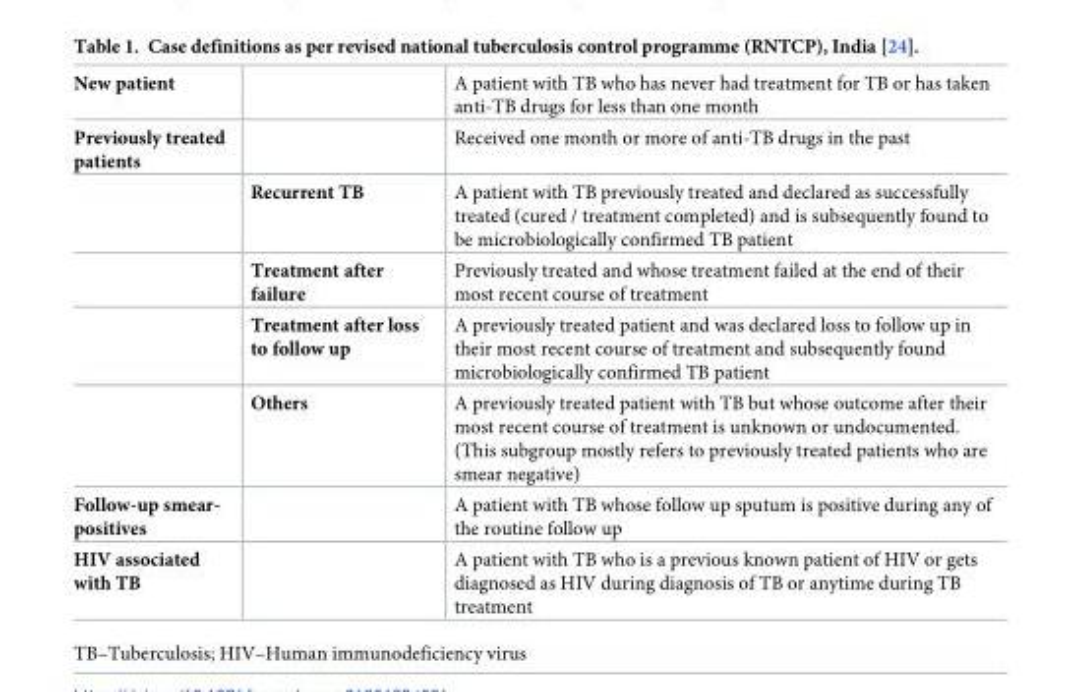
<table><tbody><tr><td>New patient</td><td></td><td>A patient with TB who has never had treatment for TB or has taken anti-TB drugs for less than one month</td></tr><tr><td rowspan="5">Previously treated patients</td><td></td><td>Received one month or more of anti-TB drugs in the past</td></tr><tr><td>Recurrent TB</td><td>A patient with TB previously treated and declared as successfully treated (cured / treatment completed) and is subsequently found to be microbiologically confirmed TB patient</td></tr><tr><td>Treatment after failure</td><td>Previously treated and whose treatment failed at the end of their most recent course of treatment</td></tr><tr><td>Treatment after loss to follow up</td><td>A previously treated patient and was declared loss to follow up in their most recent course of treatment and subsequently found microbiologically confirmed TB patient</td></tr><tr><td>Others</td><td>A previously treated patient with TB but whose outcome after their most recent course of treatment is unknown or undocumented. (This subgroup mostly refers to previously treated patients who are smear negative)</td></tr><tr><td>Follow-up smear- positives</td><td></td><td>A patient with TB whose follow up sputum is positive during any of the routine follow up</td></tr><tr><td>HIV associated with TB</td><td></td><td>A patient with TB who is a previous known patient of HIV or gets diagnosed as HIV during diagnosis of TB or anytime during TB treatment</td></tr></tbody></table>